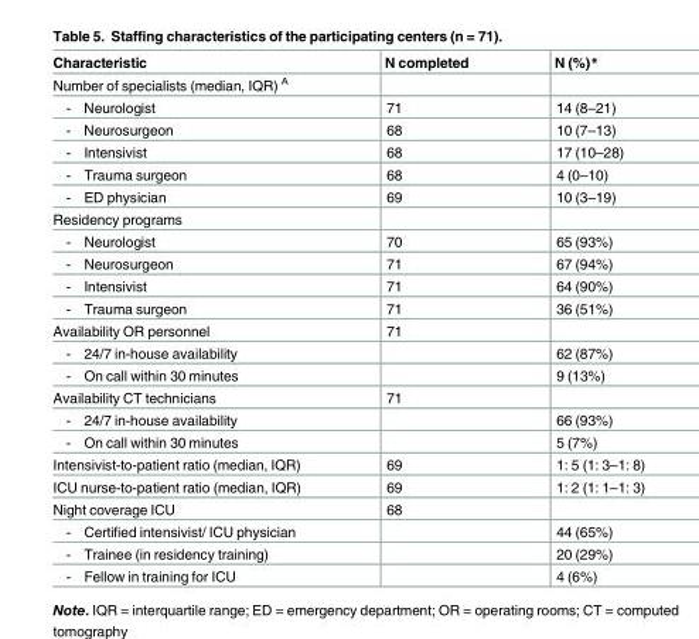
<table><thead><tr><td>Characteristic</td><td>N completed</td><td>N (%)*</td></tr></thead><tbody><tr><td colspan="3">Number of specialists (median, IQR) <sup>A</sup></td></tr><tr><td>- Neurologist</td><td>71</td><td>14 (8–21)</td></tr><tr><td>- Neurosurgeon</td><td>68</td><td>10 (7–13)</td></tr><tr><td>- Intensivist</td><td>68</td><td>17 (10–28)</td></tr><tr><td>- Trauma surgeon</td><td>68</td><td>4 (0–10)</td></tr><tr><td>- ED physician</td><td>69</td><td>10 (3–19)</td></tr><tr><td colspan="3">Residency programs</td></tr><tr><td>- Neurologist</td><td>70</td><td>65 (93%)</td></tr><tr><td>- Neurosurgeon</td><td>71</td><td>67 (94%)</td></tr><tr><td>- Intensivist</td><td>71</td><td>64 (90%)</td></tr><tr><td>- Trauma surgeon</td><td>71</td><td>36 (51%)</td></tr><tr><td>Availability OR personnel</td><td>71</td><td></td></tr><tr><td>- 24/7 in-house availability</td><td></td><td>62 (87%)</td></tr><tr><td>- On call within 30 minutes</td><td></td><td>9 (13%)</td></tr><tr><td>Availability CT technicians</td><td>71</td><td></td></tr><tr><td>- 24/7 in-house availability</td><td></td><td>66 (93%)</td></tr><tr><td>- On call within 30 minutes</td><td></td><td>5 (7%)</td></tr><tr><td>Intensivist-to-patient ratio (median, IQR)</td><td>69</td><td>1: 5 (1: 3–1: 8)</td></tr><tr><td>ICU nurse-to-patient ratio (median, IQR)</td><td>69</td><td>1: 2 (1: 1–1: 3)</td></tr><tr><td>Night coverage ICU</td><td>68</td><td></td></tr><tr><td>- Certified intensivist/ ICU physician</td><td></td><td>44 (65%)</td></tr><tr><td>- Trainee (in residency training)</td><td></td><td>20 (29%)</td></tr><tr><td>- Fellow in training for ICU</td><td></td><td>4 (6%)</td></tr></tbody></table>